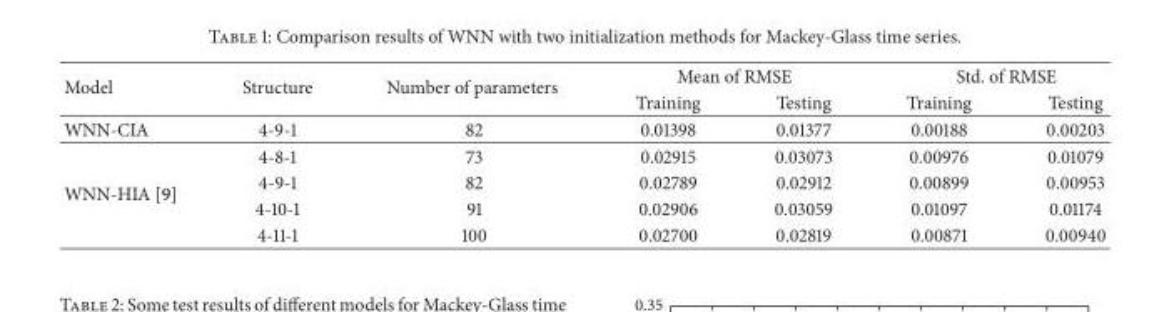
<table><thead><tr><td rowspan="2">Model</td><td rowspan="2">Structure</td><td rowspan="2">Number of parameters</td><td colspan="2">Mean of RMSE</td><td colspan="2">Std. of RMSE</td></tr><tr><td>Training</td><td>Testing</td><td>Training</td><td>Testing</td></tr></thead><tbody><tr><td>WNN-CIA</td><td>4-9-1</td><td>82</td><td>0.01398</td><td>0.01377</td><td>0.00188</td><td>0.00203</td></tr><tr><td rowspan="4">WNN-HIA [9]</td><td>4-8-1</td><td>73</td><td>0.02915</td><td>0.03073</td><td>0.00976</td><td>0.01079</td></tr><tr><td>4-9-1</td><td>82</td><td>0.02789</td><td>0.02912</td><td>0.00899</td><td>0.00953</td></tr><tr><td>4-10-1</td><td>91</td><td>0.02906</td><td>0.03059</td><td>0.01097</td><td>0.01174</td></tr><tr><td>4-11-1</td><td>100</td><td>0.02700</td><td>0.02819</td><td>0.00871</td><td>0.00940</td></tr></tbody></table>